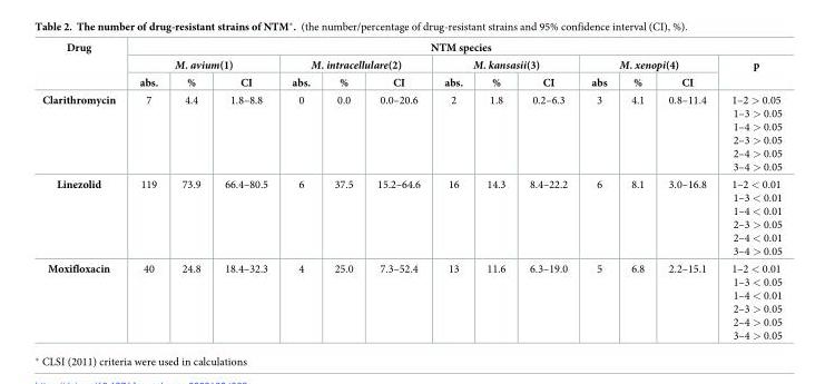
<table><thead><tr><td rowspan="3">Drug</td><td colspan="13">NTM species</td></tr><tr><td colspan="3">M. avium(1)</td><td colspan="3">M. intracellulare(2)</td><td colspan="3">M. kansasii(3)</td><td colspan="3">M. xenopi(4)</td><td rowspan="2">p</td></tr><tr><td>abs.</td><td>%</td><td>CI</td><td>abs.</td><td>%</td><td>CI</td><td>abs.</td><td>%</td><td>CI</td><td>abs</td><td>%</td><td>CI</td></tr></thead><tbody><tr><td>Clarithromycin</td><td>7</td><td>4.4</td><td>1.8–8.8</td><td>0</td><td>0.0</td><td>0.0–20.6</td><td>2</td><td>1.8</td><td>0.2–6.3</td><td>3</td><td>4.1</td><td>0.8–11.4</td><td>1–2 &gt; 0.05 1–3 &gt; 0.05 1–4 &gt; 0.05 2–3 &gt; 0.05 2–4 &gt; 0.05 3–4 &gt; 0.05</td></tr><tr><td>Linezolid</td><td>119</td><td>73.9</td><td>66.4–80.5</td><td>6</td><td>37.5</td><td>15.2–64.6</td><td>16</td><td>14.3</td><td>8.4–22.2</td><td>6</td><td>8.1</td><td>3.0–16.8</td><td>1–2 &lt; 0.01 1–3 &lt; 0.01 1–4 &lt; 0.01 2–3 &gt; 0.05 2–4 &lt; 0.01 3–4 &gt; 0.05</td></tr><tr><td>Moxifloxacin</td><td>40</td><td>24.8</td><td>18.4–32.3</td><td>4</td><td>25.0</td><td>7.3–52.4</td><td>13</td><td>11.6</td><td>6.3–19.0</td><td>5</td><td>6.8</td><td>2.2–15.1</td><td>1–2 &lt; 0.01 1–3 &lt; 0.05 1–4 &lt; 0.01 2–3 &gt; 0.05 2–4 &gt; 0.05 3–4 &gt; 0.05</td></tr></tbody></table>